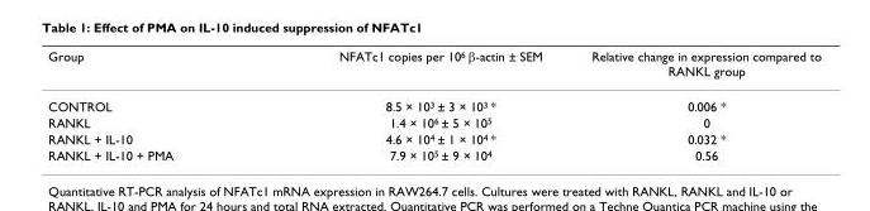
<table><thead><tr><td>Group</td><td>NFATc1 copies per 10<sup>6</sup> β-actin ± SEM</td><td>Relative change in expression compared to RANKL group</td></tr></thead><tbody><tr><td>CONTROL</td><td>8.5 × 10<sup>3</sup> ± 3 × 10<sup>3</sup> *</td><td>0.006 *</td></tr><tr><td>RANKL</td><td>1.4 × 10<sup>6</sup> ± 5 × 10<sup>5</sup></td><td>0</td></tr><tr><td>RANKL + IL-10</td><td>4.6 × 10<sup>4</sup> ± 1 × 10<sup>4</sup> *</td><td>0.032 *</td></tr><tr><td>RANKL + IL-10 + PMA</td><td>7.9 × 10<sup>5</sup> ± 9 × 10<sup>4</sup></td><td>0.56</td></tr></tbody></table>